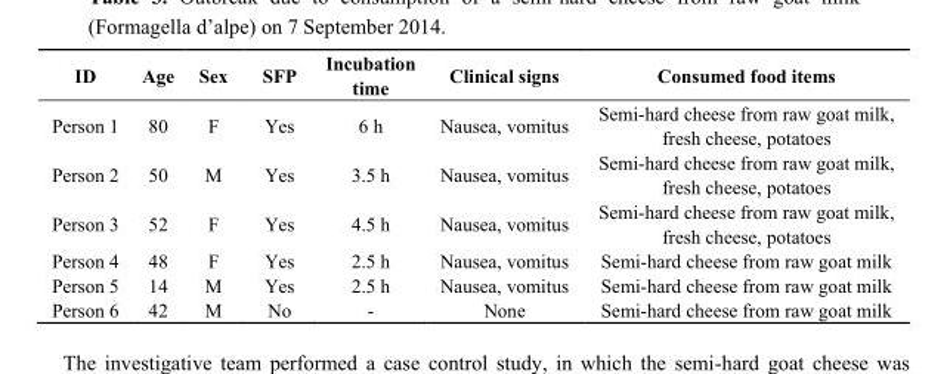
<table><thead><tr><td>ID</td><td>Age</td><td>Sex</td><td>SFP</td><td>Incubation time</td><td>Clinical signs</td><td>Consumed food items</td></tr></thead><tbody><tr><td>Person 1</td><td>80</td><td>F</td><td>Yes</td><td>6 h</td><td>Nausea, vomitus</td><td>Semi-hard cheese from raw goat milk, fresh cheese, potatoes</td></tr><tr><td>Person 2</td><td>50</td><td>M</td><td>Yes</td><td>3.5 h</td><td>Nausea, vomitus</td><td>Semi-hard cheese from raw goat milk, fresh cheese, potatoes</td></tr><tr><td>Person 3</td><td>52</td><td>F</td><td>Yes</td><td>4.5 h</td><td>Nausea, vomitus</td><td>Semi-hard cheese from raw goat milk, fresh cheese, potatoes</td></tr><tr><td>Person 4</td><td>48</td><td>F</td><td>Yes</td><td>2.5 h</td><td>Nausea, vomitus</td><td>Semi-hard cheese from raw goat milk</td></tr><tr><td>Person 5</td><td>14</td><td>M</td><td>Yes</td><td>2.5 h</td><td>Nausea, vomitus</td><td>Semi-hard cheese from raw goat milk</td></tr><tr><td>Person 6</td><td>42</td><td>M</td><td>No</td><td>-</td><td>None</td><td>Semi-hard cheese from raw goat milk</td></tr></tbody></table>